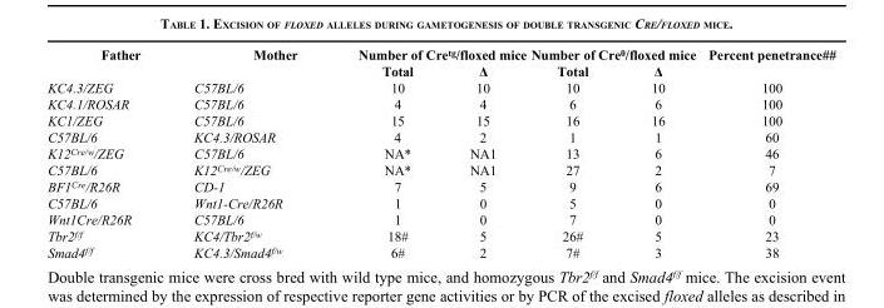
<table><tbody><tr><td rowspan="2">Father</td><td rowspan="2">Mother</td><td colspan="2">Number of Cre<sup>tg</sup>/floxed mice</td><td colspan="2">Number of Cre<sup>0</sup>/floxed mice</td><td rowspan="2">Percent penetrance##</td></tr><tr><td>Total</td><td>Δ</td><td>Total</td><td>Δ</td></tr><tr><td>KC4.3/ZEG</td><td>C57BL/6</td><td>10</td><td>10</td><td>10</td><td>10</td><td>100</td></tr><tr><td>KC4.1/ROSAR</td><td>C57BL/6</td><td>4</td><td>4</td><td>6</td><td>6</td><td>100</td></tr><tr><td>KC1/ZEG</td><td>C57BL/6</td><td>15</td><td>15</td><td>16</td><td>16</td><td>100</td></tr><tr><td>C57BL/6</td><td>KC4.3/ROSAR</td><td>4</td><td>2</td><td>1</td><td>1</td><td>60</td></tr><tr><td>K12<sup>Cre/w</sup>/ZEG</td><td>C57BL/6</td><td>NA*</td><td>NA1</td><td>13</td><td>6</td><td>46</td></tr><tr><td>C57BL/6</td><td>K12<sup>Cre/w</sup>/ZEG</td><td>NA*</td><td>NA1</td><td>27</td><td>2</td><td>7</td></tr><tr><td>BF1<sup>Cre</sup>/R26R</td><td>CD-1</td><td>7</td><td>5</td><td>9</td><td>6</td><td>69</td></tr><tr><td>C57BL/6</td><td>Wnt1-Cre/R26R</td><td>1</td><td>0</td><td>5</td><td>0</td><td>0</td></tr><tr><td>Wnt1Cre/R26R</td><td>C57BL/6</td><td>1</td><td>0</td><td>7</td><td>0</td><td>0</td></tr><tr><td>Tbr2<sup>f/f</sup></td><td>KC4/Tbr2<sup>f/w</sup></td><td>18#</td><td>5</td><td>26#</td><td>5</td><td>23</td></tr><tr><td>Smad4<sup>f/f</sup></td><td>KC4.3/Smad4<sup>f/w</sup></td><td>6#</td><td>2</td><td>7#</td><td>3</td><td>38</td></tr></tbody></table>